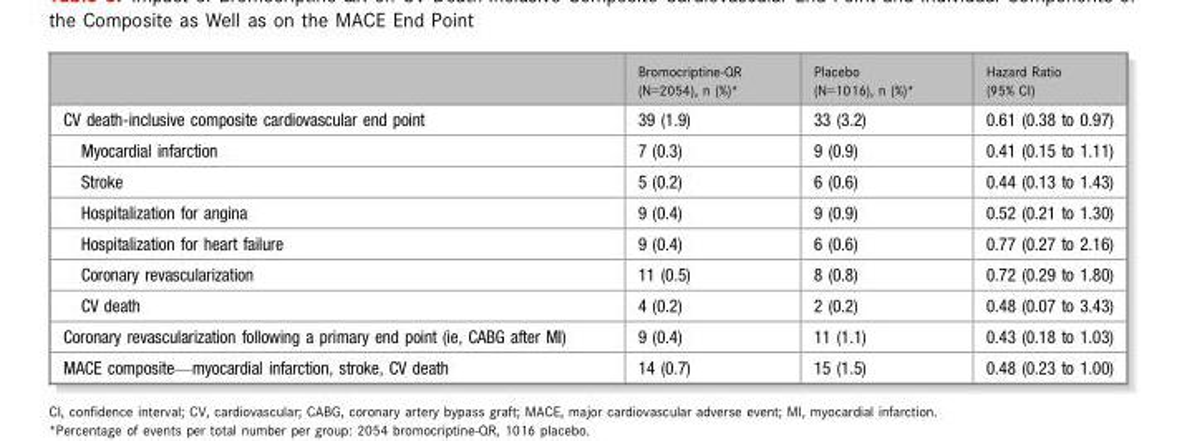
<table><thead><tr><td></td><td>Bromocriptine-QR (N=2054), n (%)*</td><td>Placebo (N=1016), n (%)*</td><td>Hazard Ratio (95% CI)</td></tr></thead><tbody><tr><td>CV death-inclusive composite cardiovascular end point</td><td>39 (1.9)</td><td>33 (3.2)</td><td>0.61 (0.38 to 0.97)</td></tr><tr><td>Myocardial infarction</td><td>7 (0.3)</td><td>9 (0.9)</td><td>0.41 (0.15 to 1.11)</td></tr><tr><td>Stroke</td><td>5 (0.2)</td><td>6 (0.6)</td><td>0.44 (0.13 to 1.43)</td></tr><tr><td>Hospitalization for angina</td><td>9 (0.4)</td><td>9 (0.9)</td><td>0.52 (0.21 to 1.30)</td></tr><tr><td>Hospitalization for heart failure</td><td>9 (0.4)</td><td>6 (0.6)</td><td>0.77 (0.27 to 2.16)</td></tr><tr><td>Coronary revascularization</td><td>11 (0.5)</td><td>8 (0.8)</td><td>0.72 (0.29 to 1.80)</td></tr><tr><td>CV death</td><td>4 (0.2)</td><td>2 (0.2)</td><td>0.48 (0.07 to 3.43)</td></tr><tr><td>Coronary revascularization following a primary end point (ie, CABG after MI)</td><td>9 (0.4)</td><td>11 (1.1)</td><td>0.43 (0.18 to 1.03)</td></tr><tr><td>MACE composite—myocardial infarction, stroke, CV death</td><td>14 (0.7)</td><td>15 (1.5)</td><td>0.48 (0.23 to 1.00)</td></tr></tbody></table>